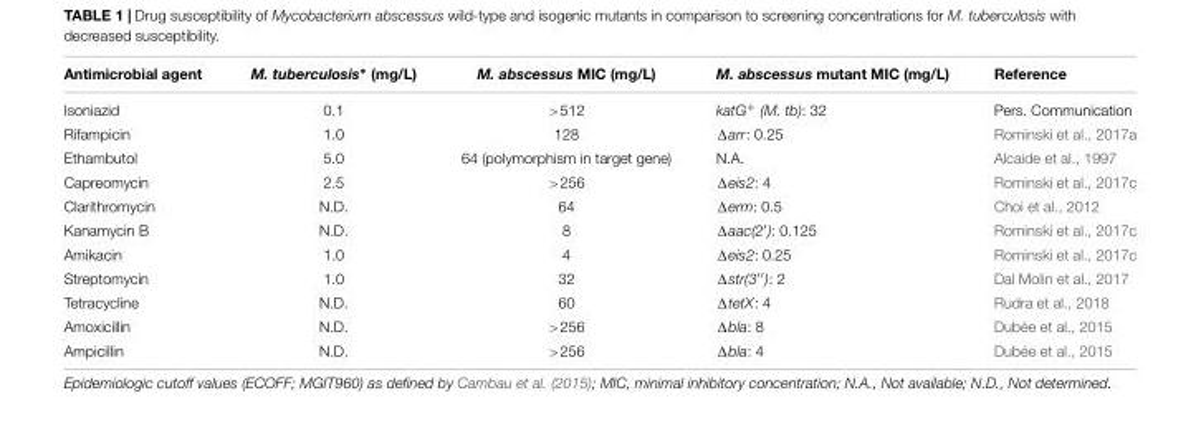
<table><thead><tr><td>Antimicrobial agent</td><td>M. tuberculosis∗ (mg/L)</td><td>M. abscessus MIC (mg/L)</td><td>M. abscessus mutant MIC (mg/L)</td><td>Reference</td></tr></thead><tbody><tr><td>Isoniazid</td><td>0.1</td><td>&gt;512</td><td>katG<sup>+</sup> (M. tb): 32</td><td>Pers. Communication</td></tr><tr><td>Rifampicin</td><td>1.0</td><td>128</td><td>Δarr: 0.25</td><td>Rominski et al., 2017a</td></tr><tr><td>Ethambutol</td><td>5.0</td><td>64 (polymorphism in target gene)</td><td>N.A.</td><td>Alcaide et al., 1997</td></tr><tr><td>Capreomycin</td><td>2.5</td><td>&gt;256</td><td>Δeis2: 4</td><td>Rominski et al., 2017c</td></tr><tr><td>Clarithromycin</td><td>N.D.</td><td>64</td><td>Δerm: 0.5</td><td>Choi et al., 2012</td></tr><tr><td>Kanamycin B</td><td>N.D.</td><td>8</td><td>Δaac(2′): 0.125</td><td>Rominski et al., 2017c</td></tr><tr><td>Amikacin</td><td>1.0</td><td>4</td><td>Δeis2: 0.25</td><td>Rominski et al., 2017c</td></tr><tr><td>Streptomycin</td><td>1.0</td><td>32</td><td>�str(3′′): 2</td><td>Dal Molin et al., 2017</td></tr><tr><td>Tetracycline</td><td>N.D.</td><td>60</td><td>ΔtetX: 4</td><td>Rudra et al., 2018</td></tr><tr><td>Amoxicillin</td><td>N.D.</td><td>&gt;256</td><td>Δbla: 8</td><td>Dubée et al., 2015</td></tr><tr><td>Ampicillin</td><td>N.D.</td><td>&gt;256</td><td>Δbla: 4</td><td>Dubée et al., 2015</td></tr></tbody></table>